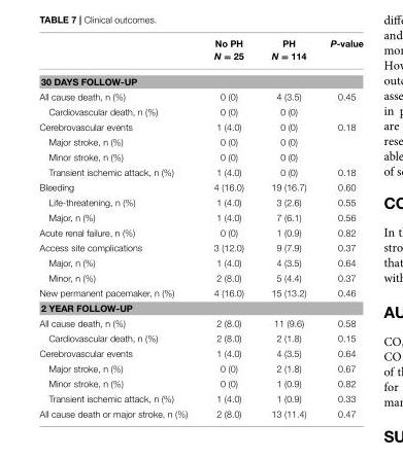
<table><thead><tr><td></td><td>No PH N = 25</td><td>PH N = 114</td><td>P-value</td></tr></thead><tbody><tr><td colspan="4">30 DAYS FOLLOW-UP</td></tr><tr><td>All cause death, n (%)</td><td>0 (0)</td><td>4 (3.5)</td><td>0.45</td></tr><tr><td>Cardiovascular death, n (%)</td><td>0 (0)</td><td>0 (0)</td><td></td></tr><tr><td>Cerebrovascular events</td><td>1 (4.0)</td><td>0 (0)</td><td>0.18</td></tr><tr><td>Major stroke, n (%)</td><td>0 (0)</td><td>0 (0)</td><td></td></tr><tr><td>Minor stroke, n (%)</td><td>0 (0)</td><td>0 (0)</td><td></td></tr><tr><td>Transient ischemic attack, n (%)</td><td>1 (4.0)</td><td>0 (0)</td><td>0.18</td></tr><tr><td>Bleeding</td><td>4 (16.0)</td><td>19 (16.7)</td><td>0.60</td></tr><tr><td>Life-threatening, n (%)</td><td>1 (4.0)</td><td>3 (2.6)</td><td>0.55</td></tr><tr><td>Major, n (%)</td><td>1 (4.0)</td><td>7 (6.1)</td><td>0.56</td></tr><tr><td>Acute renal failure, n (%)</td><td>0 (0)</td><td>1 (0.9)</td><td>0.82</td></tr><tr><td>Access site complications</td><td>3 (12.0)</td><td>9 (7.9)</td><td>0.37</td></tr><tr><td>Major, n (%)</td><td>1 (4.0)</td><td>4 (3.5)</td><td>0.64</td></tr><tr><td>Minor, n (%)</td><td>2 (8.0)</td><td>5 (4.4)</td><td>0.37</td></tr><tr><td>New permanent pacemaker, n (%)</td><td>4 (16.0)</td><td>15 (13.2)</td><td>0.46</td></tr><tr><td colspan="4">2 YEAR FOLLOW-UP</td></tr><tr><td>All cause death, n (%)</td><td>2 (8.0)</td><td>11 (9.6)</td><td>0.58</td></tr><tr><td>Cardiovascular death, n (%)</td><td>2 (8.0)</td><td>2 (1.8)</td><td>0.15</td></tr><tr><td>Cerebrovascular events</td><td>1 (4.0)</td><td>4 (3.5)</td><td>0.64</td></tr><tr><td>Major stroke, n (%)</td><td>0 (0)</td><td>2 (1.8)</td><td>0.67</td></tr><tr><td>Minor stroke, n (%)</td><td>0 (0)</td><td>1 (0.9)</td><td>0.82</td></tr><tr><td>Transient ischemic attack, n (%)</td><td>1 (4.0)</td><td>1 (0.9)</td><td>0.33</td></tr><tr><td>All cause death or major stroke, n (%)</td><td>2 (8.0)</td><td>13 (11.4)</td><td>0.47</td></tr></tbody></table>